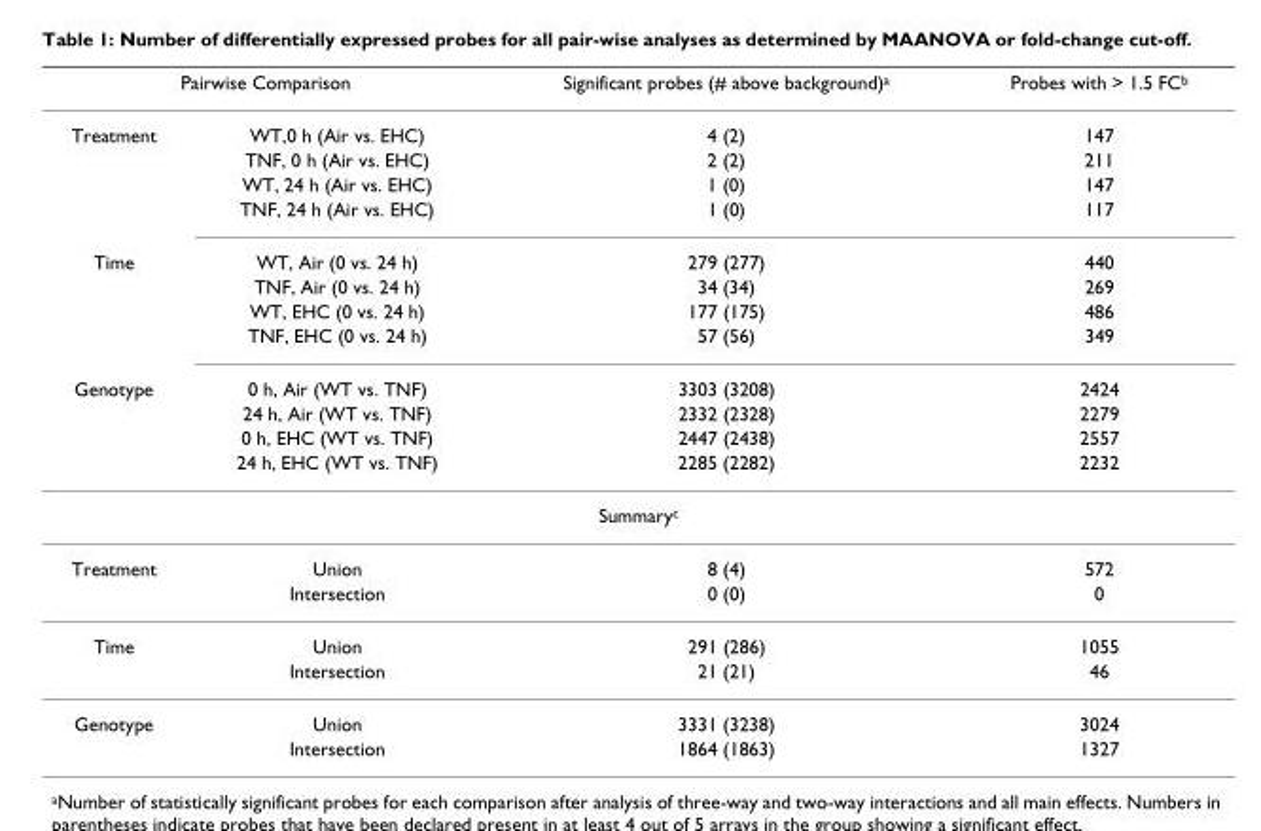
<table><thead><tr><td colspan="2">Pairwise Comparison</td><td rowspan="2">Significant probes (# above background)<sup>a</sup> 4 (2)</td><td rowspan="2">Probes with &gt; 1.5 FC<sup>b</sup> 147</td></tr><tr><td>Treatment</td><td>WT,0 h (Air vs. EHC)</td></tr></thead><tbody><tr><td></td><td>TNF, 0 h (Air vs. EHC)</td><td>2 (2)</td><td>211</td></tr><tr><td></td><td>WT, 24 h (Air vs. EHC)</td><td>1 (0)</td><td>147</td></tr><tr><td></td><td>TNF, 24 h (Air vs. EHC)</td><td>1 (0)</td><td>117</td></tr><tr><td rowspan="4">Time</td><td>WT, Air (0 vs. 24 h)</td><td>279 (277)</td><td>440</td></tr><tr><td>TNF, Air (0 vs. 24 h)</td><td>34 (34)</td><td>269</td></tr><tr><td>WT, EHC (0 vs. 24 h)</td><td>177 (175)</td><td>486</td></tr><tr><td>TNF, EHC (0 vs. 24 h)</td><td>57 (56)</td><td>349</td></tr><tr><td rowspan="4">Genotype</td><td>0 h, Air (WT vs. TNF)</td><td>3303 (3208)</td><td>2424</td></tr><tr><td>24 h, Air (WT vs. TNF)</td><td>2332 (2328)</td><td>2279</td></tr><tr><td>0 h, EHC (WT vs. TNF)</td><td>2447 (2438)</td><td>2557</td></tr><tr><td>24 h, EHC (WT vs. TNF)</td><td>2285 (2282)</td><td>2232</td></tr><tr><td colspan="4">Summary<sup>c</sup></td></tr><tr><td rowspan="2">Treatment</td><td>Union</td><td>8 (4)</td><td>572</td></tr><tr><td>Intersection</td><td>0 (0)</td><td>0</td></tr><tr><td rowspan="2">Time</td><td>Union</td><td>291 (286)</td><td>1055</td></tr><tr><td>Intersection</td><td>21 (21)</td><td>46</td></tr><tr><td rowspan="2">Genotype</td><td>Union</td><td>3331 (3238)</td><td>3024</td></tr><tr><td>Intersection</td><td>1864 (1863)</td><td>1327</td></tr></tbody></table>